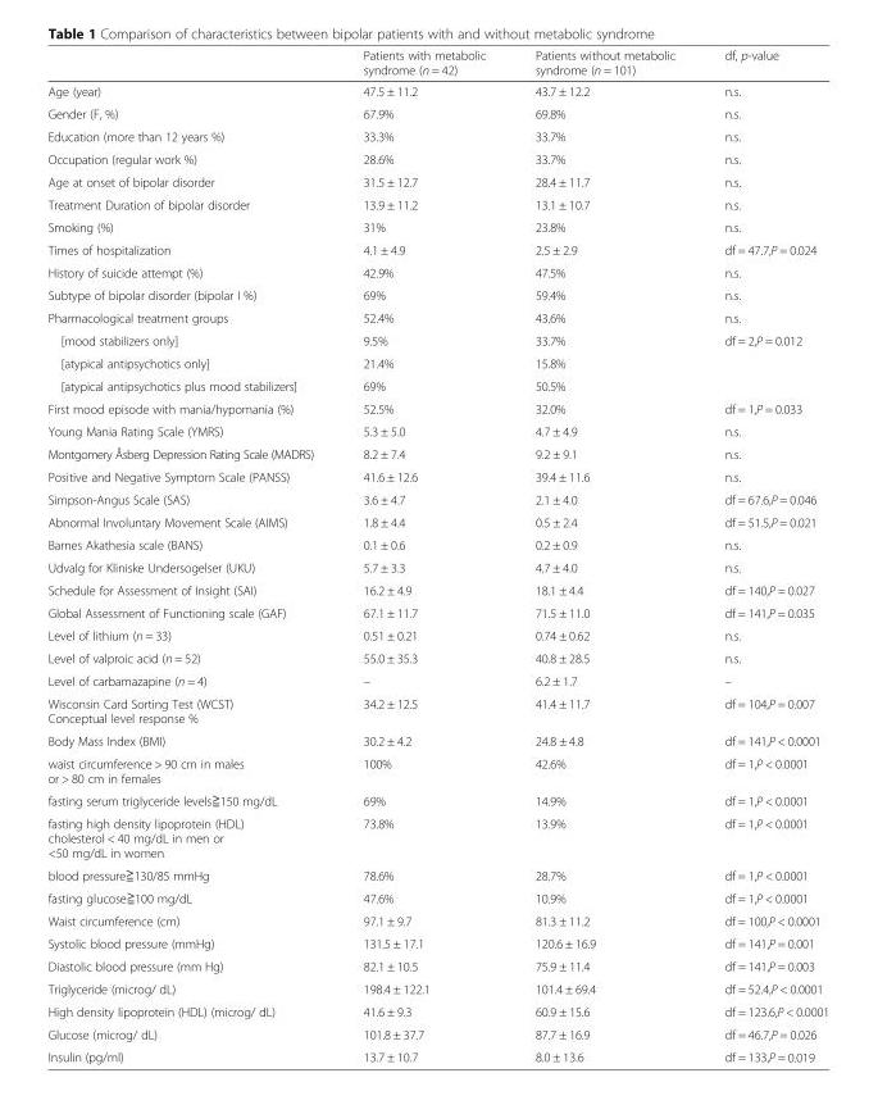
<table><thead><tr><td></td><td>Patients with metabolic syndrome (n = 42)</td><td>Patients without metabolic syndrome (n = 101)</td><td>df, p-value</td></tr></thead><tbody><tr><td>Age (year)</td><td>47.5 ± 11.2</td><td>43.7 ± 12.2</td><td>n.s.</td></tr><tr><td>Gender (F, %)</td><td>67.9%</td><td>69.8%</td><td>n.s.</td></tr><tr><td>Education (more than 12 years %)</td><td>33.3%</td><td>33.7%</td><td>n.s.</td></tr><tr><td>Occupation (regular work %)</td><td>28.6%</td><td>33.7%</td><td>n.s.</td></tr><tr><td>Age at onset of bipolar disorder</td><td>31.5 ± 12.7</td><td>28.4 ± 11.7</td><td>n.s.</td></tr><tr><td>Treatment Duration of bipolar disorder</td><td>13.9 ± 11.2</td><td>13.1 ± 10.7</td><td>n.s.</td></tr><tr><td>Smoking (%)</td><td>31%</td><td>23.8%</td><td>n.s.</td></tr><tr><td>Times of hospitalization</td><td>4.1 ± 4.9</td><td>2.5 ± 2.9</td><td>df = 47.7,P = 0.024</td></tr><tr><td>History of suicide attempt (%)</td><td>42.9%</td><td>47.5%</td><td>n.s.</td></tr><tr><td>Subtype of bipolar disorder (bipolar I %)</td><td>69%</td><td>59.4%</td><td>n.s.</td></tr><tr><td>Pharmacological treatment groups</td><td>52.4%</td><td>43.6%</td><td>n.s.</td></tr><tr><td>[mood stabilizers only]</td><td>9.5%</td><td>33.7%</td><td>df = 2,P = 0.012</td></tr><tr><td>[atypical antipsychotics only]</td><td>21.4%</td><td>15.8%</td><td></td></tr><tr><td>[atypical antipsychotics plus mood stabilizers]</td><td>69%</td><td>50.5%</td><td></td></tr><tr><td>First mood episode with mania/hypomania (%)</td><td>52.5%</td><td>32.0%</td><td>df = 1,P = 0.033</td></tr><tr><td>Young Mania Rating Scale (YMRS)</td><td>5.3 ± 5.0</td><td>4.7 ± 4.9</td><td>n.s.</td></tr><tr><td>Montgomery Åsberg Depression Rating Scale (MADRS)</td><td>8.2 ± 7.4</td><td>9.2 ± 9.1</td><td>n.s.</td></tr><tr><td>Positive and Negative Symptom Scale (PANSS)</td><td>41.6 ± 12.6</td><td>39.4 ± 11.6</td><td>n.s.</td></tr><tr><td>Simpson-Angus Scale (SAS)</td><td>3.6 ± 4.7</td><td>2.1 ± 4.0</td><td>df = 67.6,P = 0.046</td></tr><tr><td>Abnormal Involuntary Movement Scale (AIMS)</td><td>1.8 ± 4.4</td><td>0.5 ± 2.4</td><td>df = 51.5,P = 0.021</td></tr><tr><td>Barnes Akathesia scale (BANS)</td><td>0.1 ± 0.6</td><td>0.2 ± 0.9</td><td>n.s.</td></tr><tr><td>Udvalg for Kliniske Undersogelser (UKU)</td><td>5.7 ± 3.3</td><td>4.7 ± 4.0</td><td>n.s.</td></tr><tr><td>Schedule for Assessment of Insight (SAI)</td><td>16.2 ± 4.9</td><td>18.1 ± 4.4</td><td>df = 140,P = 0.027</td></tr><tr><td>Global Assessment of Functioning scale (GAF)</td><td>67.1 ± 11.7</td><td>71.5 ± 11.0</td><td>df = 141,P = 0.035</td></tr><tr><td>Level of lithium (n = 33)</td><td>0.51 ± 0.21</td><td>0.74 ± 0.62</td><td>n.s.</td></tr><tr><td>Level of valproic acid (n = 52)</td><td>55.0 ± 35.3</td><td>40.8 ± 28.5</td><td>n.s.</td></tr><tr><td>Level of carbamazapine (n = 4)</td><td>–</td><td>6.2 ± 1.7</td><td>–</td></tr><tr><td>Wisconsin Card Sorting Test (WCST) Conceptual level response %</td><td>34.2 ± 12.5</td><td>41.4 ± 11.7</td><td>df = 104,P = 0.007</td></tr><tr><td>Body Mass Index (BMI)</td><td>30.2 ± 4.2</td><td>24.8 ± 4.8</td><td>df = 141,P &lt; 0.0001</td></tr><tr><td>waist circumference &gt; 90 cm in males or &gt; 80 cm in females</td><td>100%</td><td>42.6%</td><td>df = 1,P &lt; 0.0001</td></tr><tr><td>fasting serum triglyceride levels≧150 mg/dL</td><td>69%</td><td>14.9%</td><td>df = 1,P &lt; 0.0001</td></tr><tr><td>fasting high density lipoprotein (HDL) cholesterol &lt; 40 mg/dL in men or &lt;50 mg/dL in women</td><td>73.8%</td><td>13.9%</td><td>df = 1,P &lt; 0.0001</td></tr><tr><td>blood pressure≧130/85 mmHg</td><td>78.6%</td><td>28.7%</td><td>df = 1,P &lt; 0.0001</td></tr><tr><td>fasting glucose≧100 mg/dL</td><td>47.6%</td><td>10.9%</td><td>df = 1,P &lt; 0.0001</td></tr><tr><td>Waist circumference (cm)</td><td>97.1 ± 9.7</td><td>81.3 ± 11.2</td><td>df = 100,P &lt; 0.0001</td></tr><tr><td>Systolic blood pressure (mmHg)</td><td>131.5 ± 17.1</td><td>120.6 ± 16.9</td><td>df = 141,P = 0.001</td></tr><tr><td>Diastolic blood pressure (mm Hg)</td><td>82.1 ± 10.5</td><td>75.9 ± 11.4</td><td>df = 141,P = 0.003</td></tr><tr><td>Triglyceride (microg/ dL)</td><td>198.4 ± 122.1</td><td>101.4 ± 69.4</td><td>df = 52.4,P &lt; 0.0001</td></tr><tr><td>High density lipoprotein (HDL) (microg/ dL)</td><td>41.6 ± 9.3</td><td>60.9 ± 15.6</td><td>df = 123.6,P &lt; 0.0001</td></tr><tr><td>Glucose (microg/ dL)</td><td>101.8 ± 37.7</td><td>87.7 ± 16.9</td><td>df = 46.7,P = 0.026</td></tr><tr><td>Insulin (pg/ml)</td><td>13.7 ± 10.7</td><td>8.0 ± 13.6</td><td>df = 133,P = 0.019</td></tr></tbody></table>